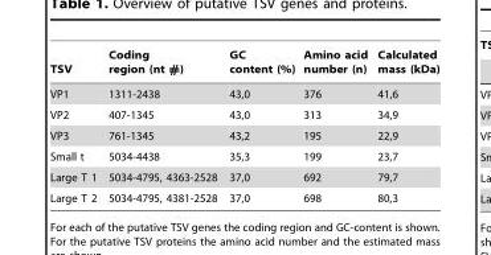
<table><thead><tr><td>TSV</td><td>Coding region (nt #)</td><td>GC content (%)</td><td>Amino acid number (n)</td><td>Calculated mass (kDa)</td></tr></thead><tbody><tr><td>VP1</td><td>1311-2438</td><td>43,0</td><td>376</td><td>41,6</td></tr><tr><td>VP2</td><td>407-1345</td><td>43,0</td><td>313</td><td>34,9</td></tr><tr><td>VP3</td><td>761-1345</td><td>43,2</td><td>195</td><td>22,9</td></tr><tr><td>Small t</td><td>5034-4438</td><td>35,3</td><td>199</td><td>23,7</td></tr><tr><td>Large T 1</td><td>5034-4795, 4363-2528</td><td>37,0</td><td>692</td><td>79,7</td></tr><tr><td>Large T 2</td><td>5034-4795, 4381-2528</td><td>37,0</td><td>698</td><td>80,3</td></tr></tbody></table>